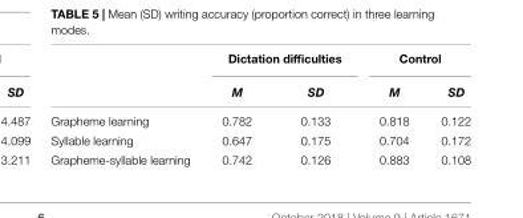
<table><thead><tr><td rowspan="2"></td><td colspan="2">Dictation difficulties</td><td colspan="2">Control</td></tr><tr><td>M</td><td>SD</td><td>M</td><td>SD</td></tr></thead><tbody><tr><td>Grapheme learning</td><td>0.782</td><td>0.133</td><td>0.818</td><td>0.122</td></tr><tr><td>Syllable learning</td><td>0.647</td><td>0.175</td><td>0.704</td><td>0.172</td></tr><tr><td>Grapheme-syllable learning</td><td>0.742</td><td>0.126</td><td>0.883</td><td>0.108</td></tr></tbody></table>